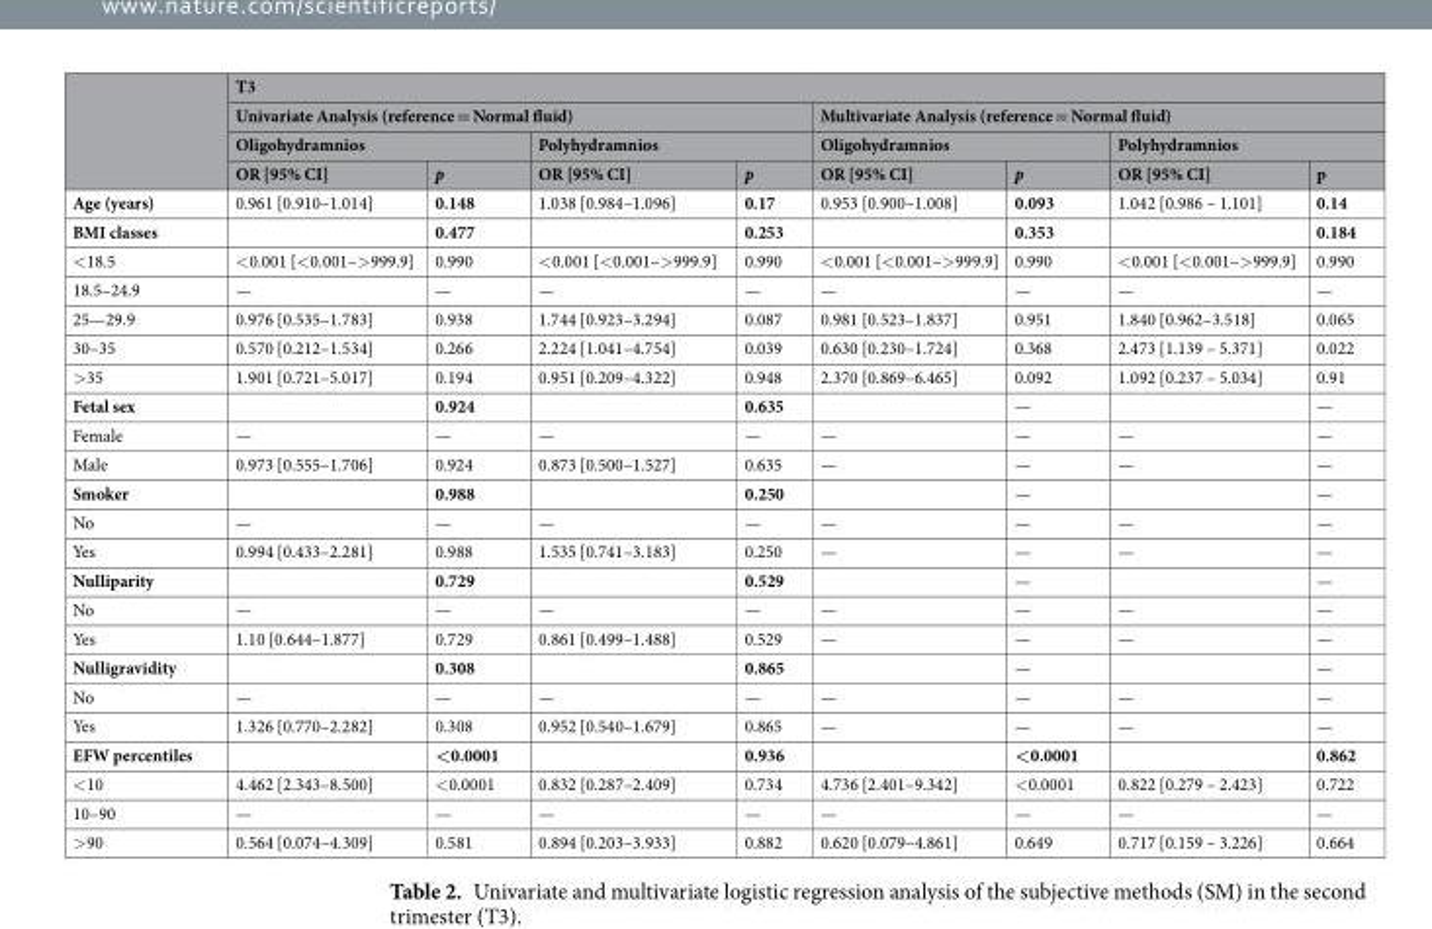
<table><thead><tr><td rowspan="4"></td><td colspan="8">T3</td></tr><tr><td colspan="4">Univariate Analysis (reference = Normal fluid)</td><td colspan="4">Multivariate Analysis (reference = Normal fluid)</td></tr><tr><td colspan="2">Oligohydramnios</td><td colspan="2">Polyhydramnios</td><td colspan="2">Oligohydramnios</td><td colspan="2">Polyhydramnios</td></tr><tr><td>OR [95% CI]</td><td>p</td><td>OR [95% CI]</td><td>p</td><td>OR [95% CI]</td><td>p</td><td>OR [95% CI]</td><td>p</td></tr></thead><tbody><tr><td>Age (years)</td><td>0.961 [0.910–1.014]</td><td>0.148</td><td>1.038 [0.984–1.096]</td><td>0.17</td><td>0.953 [0.900–1.008]</td><td>0.093</td><td>1.042 [0.986 – 1.101]</td><td>0.14</td></tr><tr><td>BMI classes</td><td></td><td>0.477</td><td></td><td>0.253</td><td></td><td>0.353</td><td></td><td>0.184</td></tr><tr><td>&lt;18.5</td><td>&lt;0.001 [&lt;0.001–&gt;999.9]</td><td>0.990</td><td>&lt;0.001 [&lt;0.001–&gt;999.9]</td><td>0.990</td><td>&lt;0.001 [&lt;0.001–&gt;999.9]</td><td>0.990</td><td>&lt;0.001 [&lt;0.001–&gt;999.9]</td><td>0.990</td></tr><tr><td>18.5–24.9</td><td>—</td><td>—</td><td>—</td><td>—</td><td>—</td><td>—</td><td>—</td><td>—</td></tr><tr><td>25—29.9</td><td>0.976 [0.535–1.783]</td><td>0.938</td><td>1.744 [0.923–3.294]</td><td>0.087</td><td>0.981 [0.523–1.837]</td><td>0.951</td><td>1.840 [0.962–3.518]</td><td>0.065</td></tr><tr><td>30–35</td><td>0.570 [0.212–1.534]</td><td>0.266</td><td>2.224 [1.041–4.754]</td><td>0.039</td><td>0.630 [0.230–1.724]</td><td>0.368</td><td>2.473 [1.139 – 5.371]</td><td>0.022</td></tr><tr><td>&gt;35</td><td>1.901 [0.721–5.017]</td><td>0.194</td><td>0.951 [0.209–4.322]</td><td>0.948</td><td>2.370 [0.869–6.465]</td><td>0.092</td><td>1.092 [0.237 – 5.034]</td><td>0.91</td></tr><tr><td>Fetal sex</td><td></td><td>0.924</td><td></td><td>0.635</td><td></td><td>—</td><td></td><td>—</td></tr><tr><td>Female</td><td>—</td><td>—</td><td>—</td><td>—</td><td>—</td><td>—</td><td>—</td><td>—</td></tr><tr><td>Male</td><td>0.973 [0.555–1.706]</td><td>0.924</td><td>0.873 [0.500–1.527]</td><td>0.635</td><td>—</td><td>—</td><td>—</td><td>—</td></tr><tr><td>Smoker</td><td></td><td>0.988</td><td></td><td>0.250</td><td></td><td>—</td><td></td><td>—</td></tr><tr><td>No</td><td>—</td><td>—</td><td>—</td><td>—</td><td>—</td><td>—</td><td>—</td><td>—</td></tr><tr><td>Yes</td><td>0.994 [0.433–2.281]</td><td>0.988</td><td>1.535 [0.741–3.183]</td><td>0.250</td><td>—</td><td>—</td><td>—</td><td>—</td></tr><tr><td>Nulliparity</td><td></td><td>0.729</td><td></td><td>0.529</td><td></td><td>—</td><td></td><td>—</td></tr><tr><td>No</td><td>—</td><td>—</td><td>—</td><td>—</td><td>—</td><td>—</td><td>—</td><td>—</td></tr><tr><td>Yes</td><td>1.10 [0.644–1.877]</td><td>0.729</td><td>0.861 [0.499–1.488]</td><td>0.529</td><td>—</td><td>—</td><td>—</td><td>—</td></tr><tr><td>Nulligravidity</td><td></td><td>0.308</td><td></td><td>0.865</td><td></td><td>—</td><td></td><td>—</td></tr><tr><td>No</td><td>—</td><td>—</td><td>—</td><td>—</td><td>—</td><td>—</td><td>—</td><td>—</td></tr><tr><td>Yes</td><td>1.326 [0.770–2.282]</td><td>0.308</td><td>0.952 [0.540–1.679]</td><td>0.865</td><td>—</td><td>—</td><td>—</td><td>—</td></tr><tr><td>EFW percentiles</td><td></td><td>&lt;0.0001</td><td></td><td>0.936</td><td></td><td>&lt;0.0001</td><td></td><td>0.862</td></tr><tr><td>&lt;10</td><td>4.462 [2.343–8.500]</td><td>&lt;0.0001</td><td>0.832 [0.287–2.409]</td><td>0.734</td><td>4.736 [2.401–9.342]</td><td>&lt;0.0001</td><td>0.822 [0.279 – 2.423]</td><td>0.722</td></tr><tr><td>10–90</td><td>—</td><td>—</td><td>—</td><td>—</td><td>—</td><td>—</td><td>—</td><td>—</td></tr><tr><td>&gt;90</td><td>0.564 [0.074–4.309]</td><td>0.581</td><td>0.894 [0.203–3.933]</td><td>0.882</td><td>0.620 [0.079–4.861]</td><td>0.649</td><td>0.717 [0.159 – 3.226]</td><td>0.664</td></tr></tbody></table>